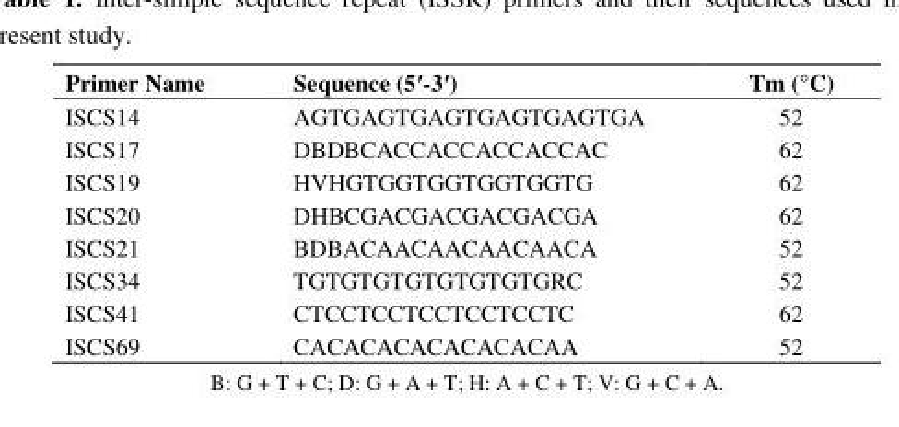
<table><thead><tr><td>Primer Name</td><td>Sequence (5′-3′)</td><td>Tm (°C)</td></tr></thead><tbody><tr><td>ISCS14</td><td>AGTGAGTGAGTGAGTGAGTGA</td><td>52</td></tr><tr><td>ISCS17</td><td>DBDBCACCACCACCACCAC</td><td>62</td></tr><tr><td>ISCS19</td><td>HVHGTGGTGGTGGTGGTG</td><td>62</td></tr><tr><td>ISCS20</td><td>DHBCGACGACGACGACGA</td><td>62</td></tr><tr><td>ISCS21</td><td>BDBACAACAACAACAACA</td><td>52</td></tr><tr><td>ISCS34</td><td>TGTGTGTGTGTGTGTGRC</td><td>52</td></tr><tr><td>ISCS41</td><td>CTCCTCCTCCTCCTCCTC</td><td>62</td></tr><tr><td>ISCS69</td><td>CACACACACACACACAA</td><td>52</td></tr></tbody></table>